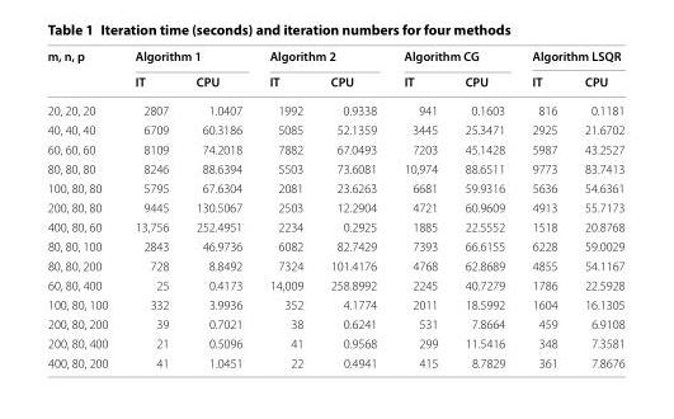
<table><thead><tr><td rowspan="2">m, n, p</td><td colspan="2">Algorithm 1</td><td colspan="2">Algorithm 2</td><td colspan="2">Algorithm CG</td><td colspan="2">Algorithm LSQR</td></tr><tr><td>IT</td><td>CPU</td><td>IT</td><td>CPU</td><td>IT</td><td>CPU</td><td>IT</td><td>CPU</td></tr></thead><tbody><tr><td>20, 20, 20</td><td>2807</td><td>1.0407</td><td>1992</td><td>0.9338</td><td>941</td><td>0.1603</td><td>816</td><td>0.1181</td></tr><tr><td>40, 40, 40</td><td>6709</td><td>60.3186</td><td>5085</td><td>52.1359</td><td>3445</td><td>25.3471</td><td>2925</td><td>21.6702</td></tr><tr><td>60, 60, 60</td><td>8109</td><td>74.2018</td><td>7882</td><td>67.0493</td><td>7203</td><td>45.1428</td><td>5987</td><td>43.2527</td></tr><tr><td>80, 80, 80</td><td>8246</td><td>88.6394</td><td>5503</td><td>73.6081</td><td>10,974</td><td>88.6511</td><td>9773</td><td>83.7413</td></tr><tr><td>100, 80, 80</td><td>5795</td><td>67.6304</td><td>2081</td><td>23.6263</td><td>6681</td><td>59.9316</td><td>5636</td><td>54.6361</td></tr><tr><td>200, 80, 80</td><td>9445</td><td>130.5067</td><td>2503</td><td>12.2904</td><td>4721</td><td>60.9609</td><td>4913</td><td>55.7173</td></tr><tr><td>400, 80, 60</td><td>13,756</td><td>252.4951</td><td>2234</td><td>0.2925</td><td>1885</td><td>22.5552</td><td>1518</td><td>20.8768</td></tr><tr><td>80, 80, 100</td><td>2843</td><td>46.9736</td><td>6082</td><td>82.7429</td><td>7393</td><td>66.6155</td><td>6228</td><td>59.0029</td></tr><tr><td>80, 80, 200</td><td>728</td><td>8.8492</td><td>7324</td><td>101.4176</td><td>4768</td><td>62.8689</td><td>4855</td><td>54.1167</td></tr><tr><td>60, 80, 400</td><td>25</td><td>0.4173</td><td>14,009</td><td>258.8992</td><td>2245</td><td>40.7279</td><td>1786</td><td>22.5928</td></tr><tr><td>100, 80, 100</td><td>332</td><td>3.9936</td><td>352</td><td>4.1774</td><td>2011</td><td>18.5992</td><td>1604</td><td>16.1305</td></tr><tr><td>200, 80, 200</td><td>39</td><td>0.7021</td><td>38</td><td>0.6241</td><td>531</td><td>7.8664</td><td>459</td><td>6.9108</td></tr><tr><td>200, 80, 400</td><td>21</td><td>0.5096</td><td>41</td><td>0.9568</td><td>299</td><td>11.5416</td><td>348</td><td>7.3581</td></tr><tr><td>400, 80, 200</td><td>41</td><td>1.0451</td><td>22</td><td>0.4941</td><td>415</td><td>8.7829</td><td>361</td><td>7.8676</td></tr></tbody></table>